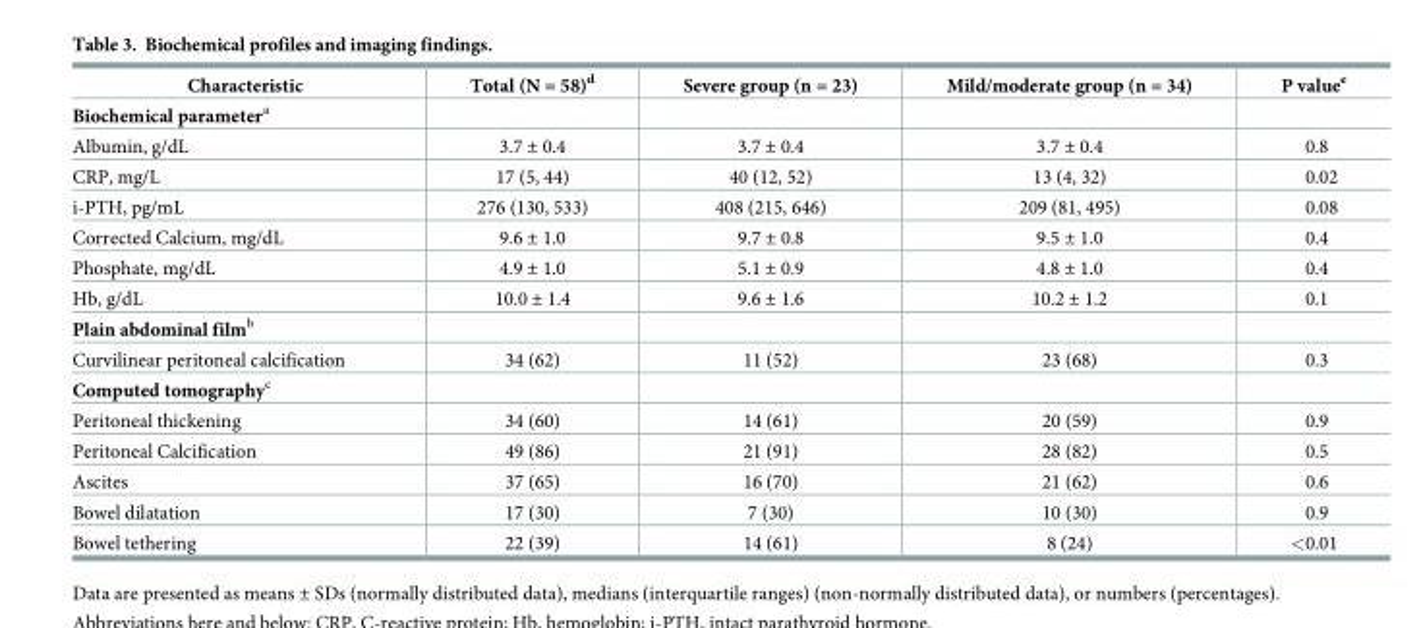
<table><thead><tr><td>Characteristic</td><td>Total (N = 58)<sup>d</sup></td><td>Severe group (n = 23)</td><td>Mild/moderate group (n = 34)</td><td>P value<sup>e</sup></td></tr></thead><tbody><tr><td colspan="5">Biochemical parameter<sup>a</sup></td></tr><tr><td>Albumin, g/dL</td><td>3.7 ± 0.4</td><td>3.7 ± 0.4</td><td>3.7 ± 0.4</td><td>0.8</td></tr><tr><td>CRP, mg/L</td><td>17 (5, 44)</td><td>40 (12, 52)</td><td>13 (4, 32)</td><td>0.02</td></tr><tr><td>i-PTH, pg/mL</td><td>276 (130, 533)</td><td>408 (215, 646)</td><td>209 (81, 495)</td><td>0.08</td></tr><tr><td>Corrected Calcium, mg/dL</td><td>9.6 ± 1.0</td><td>9.7 ± 0.8</td><td>9.5 ± 1.0</td><td>0.4</td></tr><tr><td>Phosphate, mg/dL</td><td>4.9 ± 1.0</td><td>5.1 ± 0.9</td><td>4.8 ± 1.0</td><td>0.4</td></tr><tr><td>Hb, g/dL</td><td>10.0 ± 1.4</td><td>9.6 ± 1.6</td><td>10.2 ± 1.2</td><td>0.1</td></tr><tr><td colspan="5">Plain abdominal film<sup>b</sup></td></tr><tr><td>Curvilinear peritoneal calcification</td><td>34 (62)</td><td>11 (52)</td><td>23 (68)</td><td>0.3</td></tr><tr><td colspan="5">Computed tomography<sup>c</sup></td></tr><tr><td>Peritoneal thickening</td><td>34 (60)</td><td>14 (61)</td><td>20 (59)</td><td>0.9</td></tr><tr><td>Peritoneal Calcification</td><td>49 (86)</td><td>21 (91)</td><td>28 (82)</td><td>0.5</td></tr><tr><td>Ascites</td><td>37 (65)</td><td>16 (70)</td><td>21 (62)</td><td>0.6</td></tr><tr><td>Bowel dilatation</td><td>17 (30)</td><td>7 (30)</td><td>10 (30)</td><td>0.9</td></tr><tr><td>Bowel tethering</td><td>22 (39)</td><td>14 (61)</td><td>8 (24)</td><td>&lt;0.01</td></tr></tbody></table>